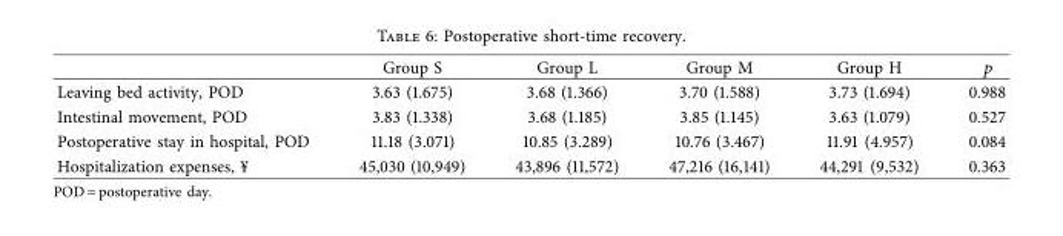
<table><thead><tr><td></td><td>Group S</td><td>Group L</td><td>Group M</td><td>Group H</td><td>p</td></tr></thead><tbody><tr><td>Leaving bed activity, POD</td><td>3.63 (1.675)</td><td>3.68 (1.366)</td><td>3.70 (1.588)</td><td>3.73 (1.694)</td><td>0.988</td></tr><tr><td>Intestinal movement, POD</td><td>3.83 (1.338)</td><td>3.68 (1.185)</td><td>3.85 (1.145)</td><td>3.63 (1.079)</td><td>0.527</td></tr><tr><td>Postoperative stay in hospital, POD</td><td>11.18 (3.071)</td><td>10.85 (3.289)</td><td>10.76 (3.467)</td><td>11.91 (4.957)</td><td>0.084</td></tr><tr><td>Hospitalization expenses, ¥</td><td>45,030 (10,949)</td><td>43,896 (11,572)</td><td>47,216 (16,141)</td><td>44,291 (9,532)</td><td>0.363</td></tr></tbody></table>